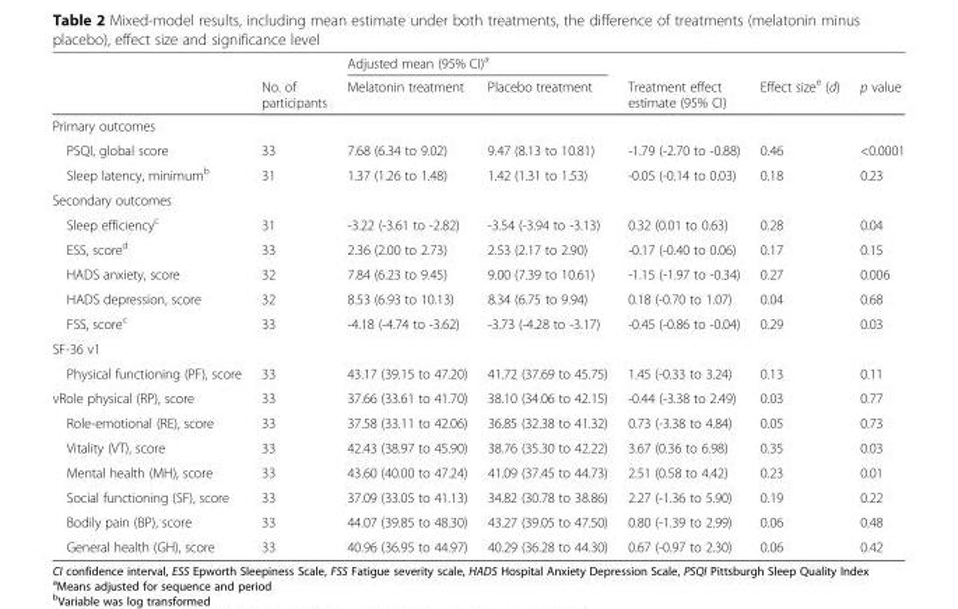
<table><thead><tr><td rowspan="2"></td><td rowspan="2">No. of participants</td><td colspan="2">Adjusted mean (95% CI)<sup>a</sup></td><td rowspan="2">Treatment effect estimate (95% CI)</td><td rowspan="2">Effect size<sup>e</sup> (d)</td><td rowspan="2">p value</td></tr><tr><td>Melatonin treatment</td><td>Placebo treatment</td></tr></thead><tbody><tr><td colspan="7">Primary outcomes</td></tr><tr><td>PSQI, global score</td><td>33</td><td>7.68 (6.34 to 9.02)</td><td>9.47 (8.13 to 10.81)</td><td>-1.79 (-2.70 to -0.88)</td><td>0.46</td><td>&lt;0.0001</td></tr><tr><td>Sleep latency, minimum<sup>b</sup></td><td>31</td><td>1.37 (1.26 to 1.48)</td><td>1.42 (1.31 to 1.53)</td><td>-0.05 (-0.14 to 0.03)</td><td>0.18</td><td>0.23</td></tr><tr><td colspan="7">Secondary outcomes</td></tr><tr><td>Sleep efficiency<sup>c</sup></td><td>31</td><td>-3.22 (-3.61 to -2.82)</td><td>-3.54 (-3.94 to -3.13)</td><td>0.32 (0.01 to 0.63)</td><td>0.28</td><td>0.04</td></tr><tr><td>ESS, score<sup>d</sup></td><td>33</td><td>2.36 (2.00 to 2.73)</td><td>2.53 (2.17 to 2.90)</td><td>-0.17 (-0.40 to 0.06)</td><td>0.17</td><td>0.15</td></tr><tr><td>HADS anxiety, score</td><td>32</td><td>7.84 (6.23 to 9.45)</td><td>9.00 (7.39 to 10.61)</td><td>-1.15 (-1.97 to -0.34)</td><td>0.27</td><td>0.006</td></tr><tr><td>HADS depression, score</td><td>32</td><td>8.53 (6.93 to 10.13)</td><td>8.34 (6.75 to 9.94)</td><td>0.18 (-0.70 to 1.07)</td><td>0.04</td><td>0.68</td></tr><tr><td>FSS, score<sup>c</sup></td><td>33</td><td>-4.18 (-4.74 to -3.62)</td><td>-3.73 (-4.28 to -3.17)</td><td>-0.45 (-0.86 to -0.04)</td><td>0.29</td><td>0.03</td></tr><tr><td colspan="7">SF-36 v1</td></tr><tr><td>Physical functioning (PF), score</td><td>33</td><td>43.17 (39.15 to 47.20)</td><td>41.72 (37.69 to 45.75)</td><td>1.45 (-0.33 to 3.24)</td><td>0.13</td><td>0.11</td></tr><tr><td>vRole physical (RP), score</td><td>33</td><td>37.66 (33.61 to 41.70)</td><td>38.10 (34.06 to 42.15)</td><td>-0.44 (-3.38 to 2.49)</td><td>0.03</td><td>0.77</td></tr><tr><td>Role-emotional (RE), score</td><td>33</td><td>37.58 (33.11 to 42.06)</td><td>36.85 (32.38 to 41.32)</td><td>0.73 (-3.38 to 4.84)</td><td>0.05</td><td>0.73</td></tr><tr><td>Vitality (VT), score</td><td>33</td><td>42.43 (38.97 to 45.90)</td><td>38.76 (35.30 to 42.22)</td><td>3.67 (0.36 to 6.98)</td><td>0.35</td><td>0.03</td></tr><tr><td>Mental health (MH), score</td><td>33</td><td>43.60 (40.00 to 47.24)</td><td>41.09 (37.45 to 44.73)</td><td>2.51 (0.58 to 4.42)</td><td>0.23</td><td>0.01</td></tr><tr><td>Social functioning (SF), score</td><td>33</td><td>37.09 (33.05 to 41.13)</td><td>34.82 (30.78 to 38.86)</td><td>2.27 (-1.36 to 5.90)</td><td>0.19</td><td>0.22</td></tr><tr><td>Bodily pain (BP), score</td><td>33</td><td>44.07 (39.85 to 48.30)</td><td>43.27 (39.05 to 47.50)</td><td>0.80 (-1.39 to 2.99)</td><td>0.06</td><td>0.48</td></tr><tr><td>General health (GH), score</td><td>33</td><td>40.96 (36.95 to 44.97)</td><td>40.29 (36.28 to 44.30)</td><td>0.67 (-0.97 to 2.30)</td><td>0.06</td><td>0.42</td></tr></tbody></table>